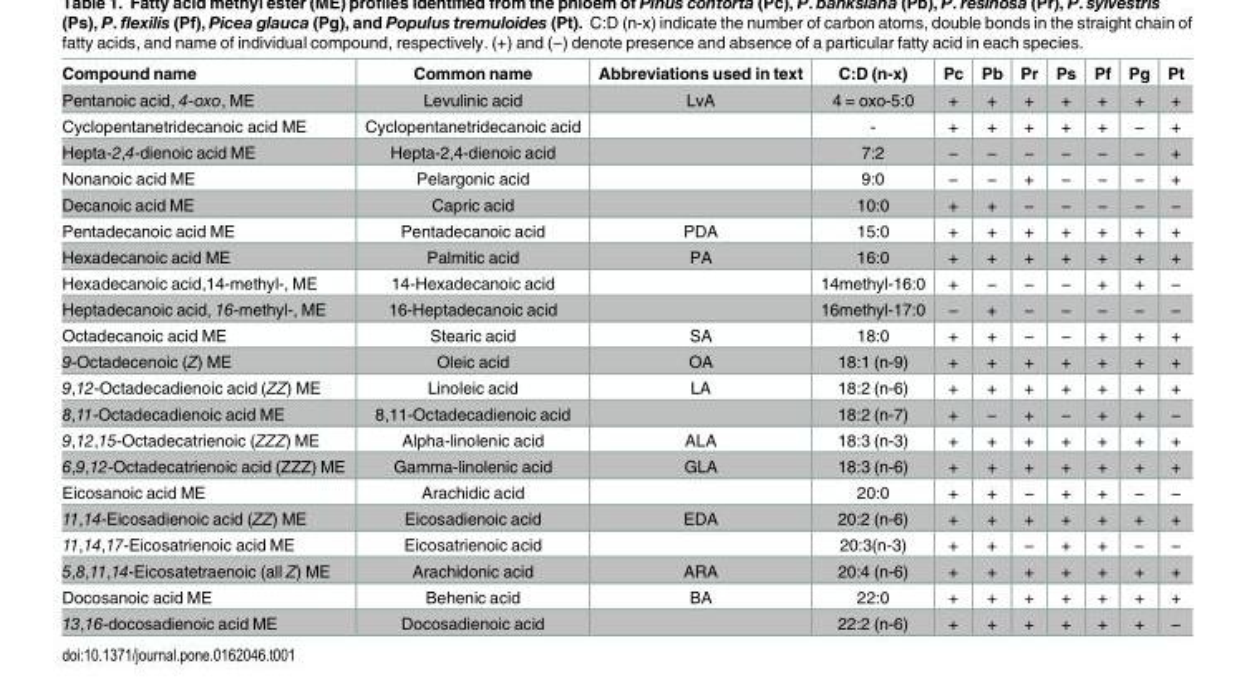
<table><thead><tr><td>Compound name</td><td>Common name</td><td>Abbreviations used in text</td><td>C:D (n-x)</td><td>Pc</td><td>Pb</td><td>Pr</td><td>Ps</td><td>Pf</td><td>Pg</td><td>Pt</td></tr></thead><tbody><tr><td>Pentanoic acid, 4-oxo, ME</td><td>Levulinic acid</td><td>LvA</td><td>4 = oxo-5:0</td><td>+</td><td>+</td><td>+</td><td>+</td><td>+</td><td>+</td><td>+</td></tr><tr><td>Cyclopentanetridecanoic acid ME</td><td>Cyclopentanetridecanoic acid</td><td></td><td>-</td><td>+</td><td>+</td><td>+</td><td>+</td><td>+</td><td>−</td><td>+</td></tr><tr><td>Hepta-2,4-dienoic acid ME</td><td>Hepta-2,4-dienoic acid</td><td></td><td>7:2</td><td>−</td><td>−</td><td>−</td><td>−</td><td>−</td><td>−</td><td>+</td></tr><tr><td>Nonanoic acid ME</td><td>Pelargonic acid</td><td></td><td>9:0</td><td>−</td><td>−</td><td>+</td><td>−</td><td>−</td><td>−</td><td>+</td></tr><tr><td>Decanoic acid ME</td><td>Capric acid</td><td></td><td>10:0</td><td>+</td><td>+</td><td>−</td><td>−</td><td>−</td><td>−</td><td>−</td></tr><tr><td>Pentadecanoic acid ME</td><td>Pentadecanoic acid</td><td>PDA</td><td>15:0</td><td>+</td><td>+</td><td>+</td><td>+</td><td>+</td><td>+</td><td>+</td></tr><tr><td>Hexadecanoic acid ME</td><td>Palmitic acid</td><td>PA</td><td>16:0</td><td>+</td><td>+</td><td>+</td><td>+</td><td>+</td><td>+</td><td>+</td></tr><tr><td>Hexadecanoic acid,14-methyl-, ME</td><td>14-Hexadecanoic acid</td><td></td><td>14methyl-16:0</td><td>+</td><td>−</td><td>−</td><td>−</td><td>+</td><td>+</td><td>−</td></tr><tr><td>Heptadecanoic acid, 16-methyl-, ME</td><td>16-Heptadecanoic acid</td><td></td><td>16methyl-17:0</td><td>−</td><td>+</td><td>−</td><td>−</td><td>−</td><td>−</td><td>−</td></tr><tr><td>Octadecanoic acid ME</td><td>Stearic acid</td><td>SA</td><td>18:0</td><td>+</td><td>+</td><td>−</td><td>−</td><td>+</td><td>+</td><td>+</td></tr><tr><td>9-Octadecenoic (Z) ME</td><td>Oleic acid</td><td>OA</td><td>18:1 (n-9)</td><td>+</td><td>+</td><td>+</td><td>+</td><td>+</td><td>+</td><td>+</td></tr><tr><td>9,12-Octadecadienoic acid (ZZ) ME</td><td>Linoleic acid</td><td>LA</td><td>18:2 (n-6)</td><td>+</td><td>+</td><td>+</td><td>+</td><td>+</td><td>+</td><td>+</td></tr><tr><td>8,11-Octadecadienoic acid ME</td><td>8,11-Octadecadienoic acid</td><td></td><td>18:2 (n-7)</td><td>+</td><td>−</td><td>+</td><td>−</td><td>+</td><td>+</td><td>−</td></tr><tr><td>9,12,15-Octadecatrienoic (ZZZ) ME</td><td>Alpha-linolenic acid</td><td>ALA</td><td>18:3 (n-3)</td><td>+</td><td>+</td><td>+</td><td>+</td><td>+</td><td>+</td><td>+</td></tr><tr><td>6,9,12-Octadecatrienoic acid (ZZZ) ME</td><td>Gamma-linolenic acid</td><td>GLA</td><td>18:3 (n-6)</td><td>+</td><td>+</td><td>+</td><td>+</td><td>+</td><td>+</td><td>+</td></tr><tr><td>Eicosanoic acid ME</td><td>Arachidic acid</td><td></td><td>20:0</td><td>+</td><td>+</td><td>−</td><td>+</td><td>+</td><td>−</td><td>−</td></tr><tr><td>11,14-Eicosadienoic acid (ZZ) ME</td><td>Eicosadienoic acid</td><td>EDA</td><td>20:2 (n-6)</td><td>+</td><td>+</td><td>+</td><td>+</td><td>+</td><td>+</td><td>+</td></tr><tr><td>11,14,17-Eicosatrienoic acid ME</td><td>Eicosatrienoic acid</td><td></td><td>20:3(n-3)</td><td>+</td><td>+</td><td>−</td><td>+</td><td>+</td><td>−</td><td>−</td></tr><tr><td>5,8,11,14-Eicosatetraenoic (all Z) ME</td><td>Arachidonic acid</td><td>ARA</td><td>20:4 (n-6)</td><td>+</td><td>+</td><td>+</td><td>+</td><td>+</td><td>+</td><td>+</td></tr><tr><td>Docosanoic acid ME</td><td>Behenic acid</td><td>BA</td><td>22:0</td><td>+</td><td>+</td><td>+</td><td>+</td><td>+</td><td>+</td><td>+</td></tr><tr><td>13,16-docosadienoic acid ME</td><td>Docosadienoic acid</td><td></td><td>22:2 (n-6)</td><td>+</td><td>+</td><td>+</td><td>+</td><td>+</td><td>+</td><td>−</td></tr></tbody></table>